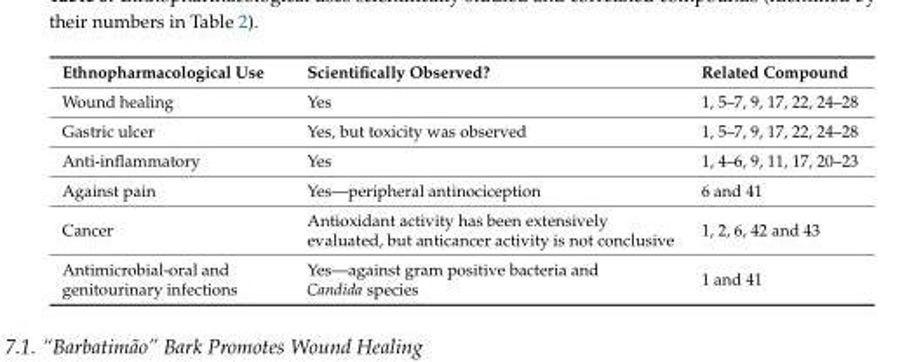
<table><thead><tr><td>Ethnopharmacological Use</td><td>Scientifically Observed?</td><td>Related Compound</td></tr></thead><tbody><tr><td>Wound healing</td><td>Yes</td><td>1, 5–7, 9, 17, 22, 24–28</td></tr><tr><td>Gastric ulcer</td><td>Yes, but toxicity was observed</td><td>1, 5–7, 9, 17, 22, 24–28</td></tr><tr><td>Anti-inflammatory</td><td>Yes</td><td>1, 4–6, 9, 11, 17, 20–23</td></tr><tr><td>Against pain</td><td>Yes—peripheral antinociception</td><td>6 and 41</td></tr><tr><td>Cancer</td><td>Antioxidant activity has been extensively evaluated, but anticancer activity is not conclusive</td><td>1, 2, 6, 42 and 43</td></tr><tr><td>Antimicrobial-oral and genitourinary infections</td><td>Yes—against gram positive bacteria and Candida species</td><td>1 and 41</td></tr></tbody></table>